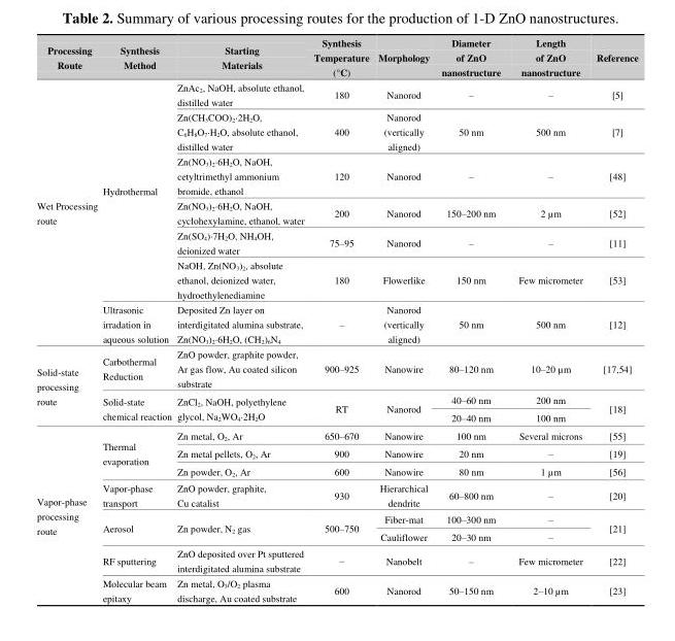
<table><thead><tr><td>Processing Route</td><td>Synthesis Method</td><td>Starting Materials</td><td>Synthesis Temperature (°C)</td><td>Morphology</td><td>Diameter of ZnO nanostructure</td><td>Length of ZnO nanostructure</td><td>Reference</td></tr></thead><tbody><tr><td rowspan="7">Wet Processing route</td><td rowspan="6">Hydrothermal</td><td>ZnAc<sub>2</sub>, NaOH, absolute ethanol, distilled water</td><td>180</td><td>Nanorod</td><td>–</td><td>–</td><td>[5]</td></tr><tr><td>Zn(CH<sub>3</sub>COO)<sub>2</sub>·2H<sub>2</sub>O, C<sub>6</sub>H<sub>8</sub>O<sub>7</sub>·H<sub>2</sub>O, absolute ethanol, distilled water</td><td>400</td><td>Nanorod (vertically aligned)</td><td>50 nm</td><td>500 nm</td><td>[7]</td></tr><tr><td>Zn(NO<sub>3</sub>)<sub>2</sub>·6H<sub>2</sub>O, NaOH, cetyltrimethyl ammonium bromide, ethanol</td><td>120</td><td>Nanorod</td><td>–</td><td>–</td><td>[48]</td></tr><tr><td>Zn(NO<sub>3</sub>)<sub>2</sub>·6H<sub>2</sub>O, NaOH, cyclohexylamine, ethanol, water</td><td>200</td><td>Nanorod</td><td>150–200 nm</td><td>2 µm</td><td>[52]</td></tr><tr><td>Zn(SO<sub>4</sub>)·7H<sub>2</sub>O, NH<sub>4</sub>OH, deionized water</td><td>75–95</td><td>Nanorod</td><td>–</td><td>–</td><td>[11]</td></tr><tr><td>NaOH, Zn(NO<sub>3</sub>)<sub>2</sub>, absolute ethanol, deionized water, hydroethylenediamine</td><td>180</td><td>Flowerlike</td><td>150 nm</td><td>Few micrometer</td><td>[53]</td></tr><tr><td>Ultrasonic irradation in aqueous solution</td><td>Deposited Zn layer on interdigitated alumina substrate, Zn(NO<sub>3</sub>)<sub>2</sub>·6H<sub>2</sub>O, (CH<sub>2</sub>)<sub>6</sub>N<sub>4</sub></td><td>–</td><td>Nanorod (vertically aligned)</td><td>50 nm</td><td>500 nm</td><td>[12]</td></tr><tr><td rowspan="3">Solid-state processing route</td><td>Carbothermal Reduction</td><td>ZnO powder, graphite powder, Ar gas flow, Au coated silicon substrate</td><td>900–925</td><td>Nanowire</td><td>80–120 nm</td><td>10–20 µm</td><td>[17,54]</td></tr><tr><td rowspan="2">Solid-state chemical reaction</td><td rowspan="2">ZnCl<sub>2</sub>, NaOH, polyethylene glycol, Na<sub>2</sub>WO<sub>4</sub>·2H<sub>2</sub>O</td><td rowspan="2">RT</td><td rowspan="2">Nanorod</td><td>40–60 nm</td><td>200 nm</td><td rowspan="2">[18]</td></tr><tr><td>20–40 nm</td><td>100 nm</td></tr><tr><td rowspan="8">Vapor-phase processing route</td><td rowspan="3">Thermal evaporation</td><td>Zn metal, O<sub>2</sub>, Ar</td><td>650–670</td><td>Nanowire</td><td>100 nm</td><td>Several microns</td><td>[55]</td></tr><tr><td>Zn metal pellets, O<sub>2</sub>, Ar</td><td>900</td><td>Nanowire</td><td>20 nm</td><td>–</td><td>[19]</td></tr><tr><td>Zn powder, O<sub>2</sub>, Ar</td><td>600</td><td>Nanowire</td><td>80 nm</td><td>1 µm</td><td>[56]</td></tr><tr><td>Vapor-phase transport</td><td>ZnO powder, graphite, Cu catalist</td><td>930</td><td>Hierarchical dendrite</td><td>60–800 nm</td><td>–</td><td>[20]</td></tr><tr><td rowspan="2">Aerosol</td><td rowspan="2">Zn powder, N<sub>2</sub> gas</td><td rowspan="2">500–750</td><td>Fiber-mat</td><td>100–300 nm</td><td>–</td><td rowspan="2">[21]</td></tr><tr><td>Cauliflower</td><td>20–30 nm</td><td>–</td></tr><tr><td>RF sputtering</td><td>ZnO deposited over Pt sputtered interdigitated alumina substrate</td><td>−</td><td>Nanobelt</td><td>–</td><td>Few micrometer</td><td>[22]</td></tr><tr><td>Molecular beam epitaxy</td><td>Zn metal, O<sub>3</sub>/O<sub>2</sub> plasma discharge, Au coated substrate</td><td>600</td><td>Nanorod</td><td>50–150 nm</td><td>2–10 µm</td><td>[23]</td></tr></tbody></table>